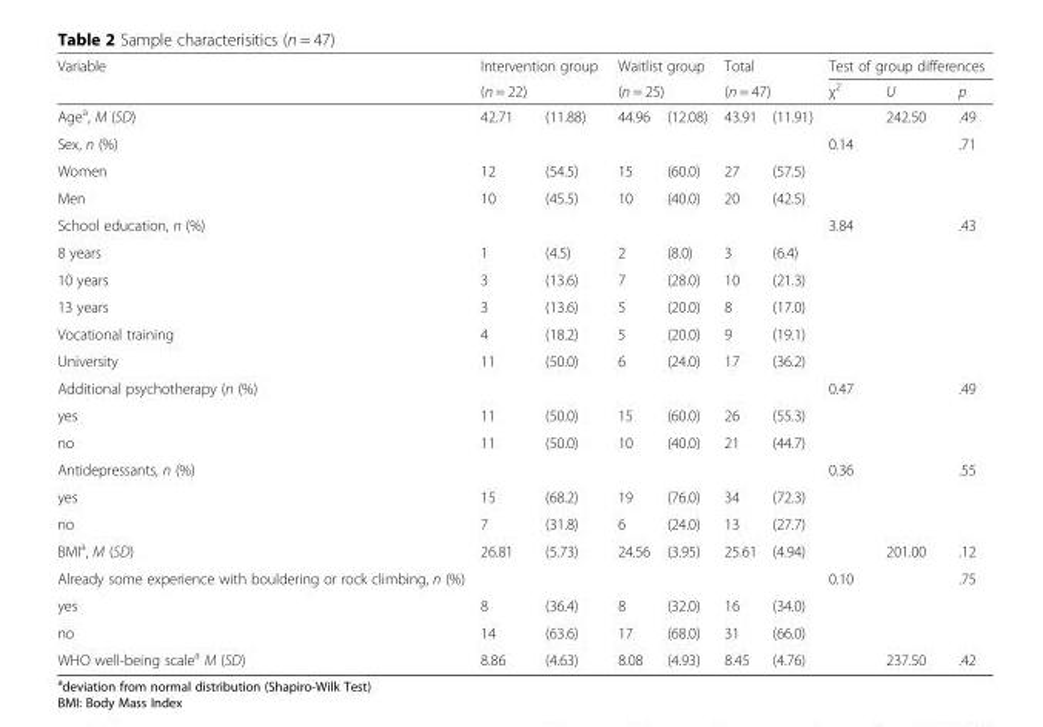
<table><thead><tr><td rowspan="3">Variable Age<sup>a</sup>, M (SD)</td><td rowspan="2" colspan="2">Intervention group (n = 22)</td><td rowspan="2" colspan="2">Waitlist group (n = 25)</td><td rowspan="2" colspan="2">Total (n = 47)</td><td colspan="3">Test of group differences</td></tr><tr><td rowspan="2">χ<sup>2</sup></td><td rowspan="2">U 242.50</td><td rowspan="2">p .49</td></tr><tr><td>42.71</td><td>(11.88)</td><td>44.96</td><td>(12.08)</td><td>43.91</td><td>(11.91)</td></tr></thead><tbody><tr><td>Sex, n (%)</td><td></td><td></td><td></td><td></td><td></td><td></td><td>0.14</td><td></td><td>.71</td></tr><tr><td>Women</td><td>12</td><td>(54.5)</td><td>15</td><td>(60.0)</td><td>27</td><td>(57.5)</td><td></td><td></td><td></td></tr><tr><td>Men</td><td>10</td><td>(45.5)</td><td>10</td><td>(40.0)</td><td>20</td><td>(42.5)</td><td></td><td></td><td></td></tr><tr><td>School education, n (%)</td><td></td><td></td><td></td><td></td><td></td><td></td><td>3.84</td><td></td><td>.43</td></tr><tr><td>8 years</td><td>1</td><td>(4.5)</td><td>2</td><td>(8.0)</td><td>3</td><td>(6.4)</td><td></td><td></td><td></td></tr><tr><td>10 years</td><td>3</td><td>(13.6)</td><td>7</td><td>(28.0)</td><td>10</td><td>(21.3)</td><td></td><td></td><td></td></tr><tr><td>13 years</td><td>3</td><td>(13.6)</td><td>5</td><td>(20.0)</td><td>8</td><td>(17.0)</td><td></td><td></td><td></td></tr><tr><td>Vocational training</td><td>4</td><td>(18.2)</td><td>5</td><td>(20.0)</td><td>9</td><td>(19.1)</td><td></td><td></td><td></td></tr><tr><td>University</td><td>11</td><td>(50.0)</td><td>6</td><td>(24.0)</td><td>17</td><td>(36.2)</td><td></td><td></td><td></td></tr><tr><td>Additional psychotherapy (n (%)</td><td></td><td></td><td></td><td></td><td></td><td></td><td>0.47</td><td></td><td>.49</td></tr><tr><td>yes</td><td>11</td><td>(50.0)</td><td>15</td><td>(60.0)</td><td>26</td><td>(55.3)</td><td></td><td></td><td></td></tr><tr><td>no</td><td>11</td><td>(50.0)</td><td>10</td><td>(40.0)</td><td>21</td><td>(44.7)</td><td></td><td></td><td></td></tr><tr><td>Antidepressants, n (%)</td><td></td><td></td><td></td><td></td><td></td><td></td><td>0.36</td><td></td><td>.55</td></tr><tr><td>yes</td><td>15</td><td>(68.2)</td><td>19</td><td>(76.0)</td><td>34</td><td>(72.3)</td><td></td><td></td><td></td></tr><tr><td>no</td><td>7</td><td>(31.8)</td><td>6</td><td>(24.0)</td><td>13</td><td>(27.7)</td><td></td><td></td><td></td></tr><tr><td>BMI<sup>a</sup>, M (SD)</td><td>26.81</td><td>(5.73)</td><td>24.56</td><td>(3.95)</td><td>25.61</td><td>(4.94)</td><td></td><td>201.00</td><td>.12</td></tr><tr><td>Already some experience with bouldering or rock climbing, n (%)</td><td></td><td></td><td></td><td></td><td></td><td></td><td>0.10</td><td></td><td>.75</td></tr><tr><td>yes</td><td>8</td><td>(36.4)</td><td>8</td><td>(32.0)</td><td>16</td><td>(34.0)</td><td></td><td></td><td></td></tr><tr><td>no</td><td>14</td><td>(63.6)</td><td>17</td><td>(68.0)</td><td>31</td><td>(66.0)</td><td></td><td></td><td></td></tr><tr><td>WHO well-being scale<sup>a</sup> M (SD)</td><td>8.86</td><td>(4.63)</td><td>8.08</td><td>(4.93)</td><td>8.45</td><td>(4.76)</td><td></td><td>237.50</td><td>.42</td></tr></tbody></table>